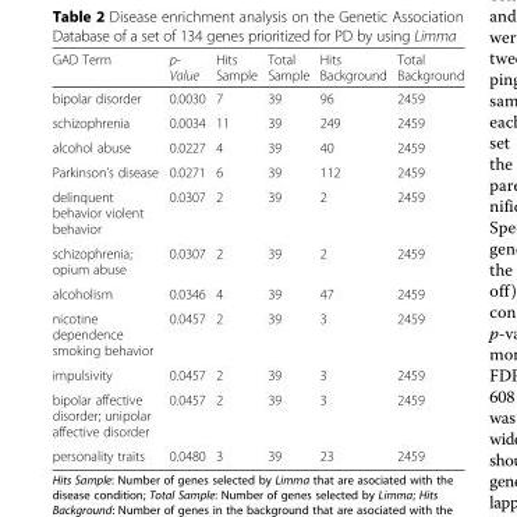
<table><thead><tr><td>GAD Term</td><td>p- Value</td><td>Hits Sample</td><td>Total Sample</td><td>Hits Background</td><td>Total Background</td></tr></thead><tbody><tr><td>bipolar disorder</td><td>0.0030</td><td>7</td><td>39</td><td>96</td><td>2459</td></tr><tr><td>schizophrenia</td><td>0.0034</td><td>11</td><td>39</td><td>249</td><td>2459</td></tr><tr><td>alcohol abuse</td><td>0.0227</td><td>4</td><td>39</td><td>40</td><td>2459</td></tr><tr><td>Parkinson’s disease</td><td>0.0271</td><td>6</td><td>39</td><td>112</td><td>2459</td></tr><tr><td>delinquent behavior violent behavior</td><td>0.0307</td><td>2</td><td>39</td><td>2</td><td>2459</td></tr><tr><td>schizophrenia; opium abuse</td><td>0.0307</td><td>2</td><td>39</td><td>2</td><td>2459</td></tr><tr><td>alcoholism</td><td>0.0346</td><td>4</td><td>39</td><td>47</td><td>2459</td></tr><tr><td>nicotine dependence smoking behavior</td><td>0.0457</td><td>2</td><td>39</td><td>3</td><td>2459</td></tr><tr><td>impulsivity</td><td>0.0457</td><td>2</td><td>39</td><td>3</td><td>2459</td></tr><tr><td>bipolar affective disorder; unipolar affective disorder</td><td>0.0457</td><td>2</td><td>39</td><td>3</td><td>2459</td></tr><tr><td>personality traits</td><td>0.0480</td><td>3</td><td>39</td><td>23</td><td>2459</td></tr></tbody></table>